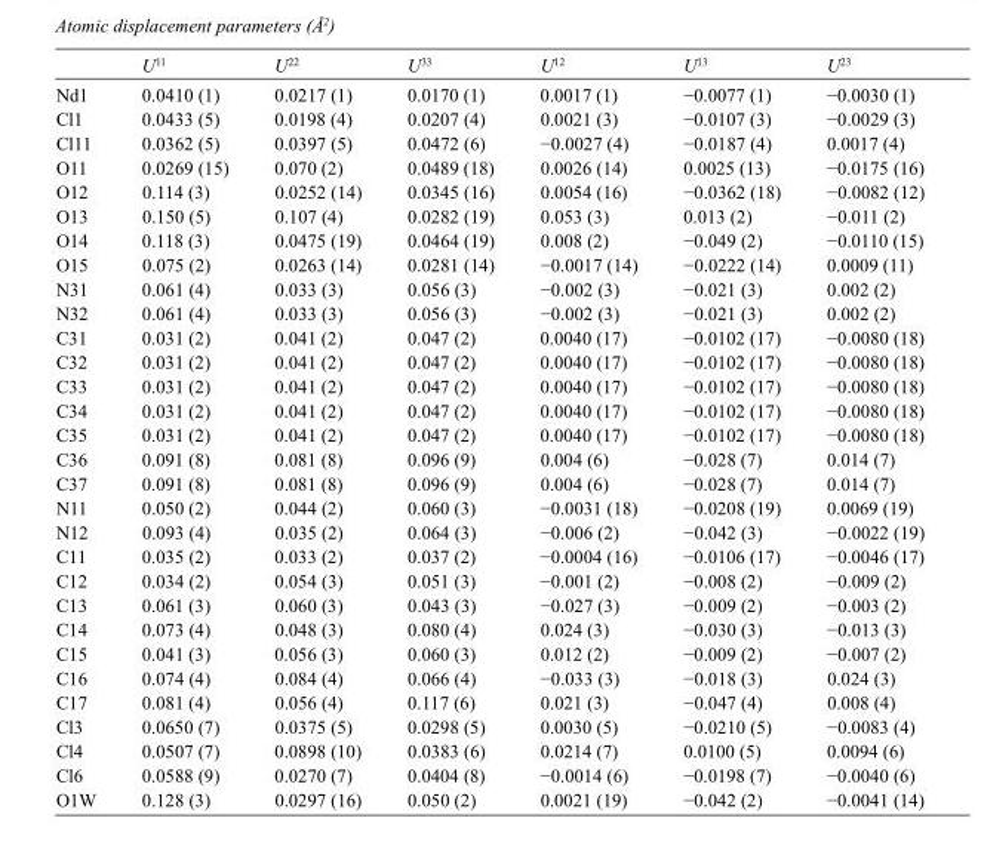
<table><thead><tr><td></td><td>U<sup>11</sup></td><td>U<sup>22</sup></td><td>U<sup>33</sup></td><td>U<sup>12</sup></td><td>U<sup>13</sup></td><td>U<sup>23</sup></td></tr></thead><tbody><tr><td>Nd1</td><td>0.0410 (1)</td><td>0.0217 (1)</td><td>0.0170 (1)</td><td>0.0017 (1)</td><td>−0.0077 (1)</td><td>−0.0030 (1)</td></tr><tr><td>Cl1</td><td>0.0433 (5)</td><td>0.0198 (4)</td><td>0.0207 (4)</td><td>0.0021 (3)</td><td>−0.0107 (3)</td><td>−0.0029 (3)</td></tr><tr><td>Cl11</td><td>0.0362 (5)</td><td>0.0397 (5)</td><td>0.0472 (6)</td><td>−0.0027 (4)</td><td>−0.0187 (4)</td><td>0.0017 (4)</td></tr><tr><td>O11</td><td>0.0269 (15)</td><td>0.070 (2)</td><td>0.0489 (18)</td><td>0.0026 (14)</td><td>0.0025 (13)</td><td>−0.0175 (16)</td></tr><tr><td>O12</td><td>0.114 (3)</td><td>0.0252 (14)</td><td>0.0345 (16)</td><td>0.0054 (16)</td><td>−0.0362 (18)</td><td>−0.0082 (12)</td></tr><tr><td>O13</td><td>0.150 (5)</td><td>0.107 (4)</td><td>0.0282 (19)</td><td>0.053 (3)</td><td>0.013 (2)</td><td>−0.011 (2)</td></tr><tr><td>O14</td><td>0.118 (3)</td><td>0.0475 (19)</td><td>0.0464 (19)</td><td>0.008 (2)</td><td>−0.049 (2)</td><td>−0.0110 (15)</td></tr><tr><td>O15</td><td>0.075 (2)</td><td>0.0263 (14)</td><td>0.0281 (14)</td><td>−0.0017 (14)</td><td>−0.0222 (14)</td><td>0.0009 (11)</td></tr><tr><td>N31</td><td>0.061 (4)</td><td>0.033 (3)</td><td>0.056 (3)</td><td>−0.002 (3)</td><td>−0.021 (3)</td><td>0.002 (2)</td></tr><tr><td>N32</td><td>0.061 (4)</td><td>0.033 (3)</td><td>0.056 (3)</td><td>−0.002 (3)</td><td>−0.021 (3)</td><td>0.002 (2)</td></tr><tr><td>C31</td><td>0.031 (2)</td><td>0.041 (2)</td><td>0.047 (2)</td><td>0.0040 (17)</td><td>−0.0102 (17)</td><td>−0.0080 (18)</td></tr><tr><td>C32</td><td>0.031 (2)</td><td>0.041 (2)</td><td>0.047 (2)</td><td>0.0040 (17)</td><td>−0.0102 (17)</td><td>−0.0080 (18)</td></tr><tr><td>C33</td><td>0.031 (2)</td><td>0.041 (2)</td><td>0.047 (2)</td><td>0.0040 (17)</td><td>−0.0102 (17)</td><td>−0.0080 (18)</td></tr><tr><td>C34</td><td>0.031 (2)</td><td>0.041 (2)</td><td>0.047 (2)</td><td>0.0040 (17)</td><td>−0.0102 (17)</td><td>−0.0080 (18)</td></tr><tr><td>C35</td><td>0.031 (2)</td><td>0.041 (2)</td><td>0.047 (2)</td><td>0.0040 (17)</td><td>−0.0102 (17)</td><td>−0.0080 (18)</td></tr><tr><td>C36</td><td>0.091 (8)</td><td>0.081 (8)</td><td>0.096 (9)</td><td>0.004 (6)</td><td>−0.028 (7)</td><td>0.014 (7)</td></tr><tr><td>C37</td><td>0.091 (8)</td><td>0.081 (8)</td><td>0.096 (9)</td><td>0.004 (6)</td><td>−0.028 (7)</td><td>0.014 (7)</td></tr><tr><td>N11</td><td>0.050 (2)</td><td>0.044 (2)</td><td>0.060 (3)</td><td>−0.0031 (18)</td><td>−0.0208 (19)</td><td>0.0069 (19)</td></tr><tr><td>N12</td><td>0.093 (4)</td><td>0.035 (2)</td><td>0.064 (3)</td><td>−0.006 (2)</td><td>−0.042 (3)</td><td>−0.0022 (19)</td></tr><tr><td>C11</td><td>0.035 (2)</td><td>0.033 (2)</td><td>0.037 (2)</td><td>−0.0004 (16)</td><td>−0.0106 (17)</td><td>−0.0046 (17)</td></tr><tr><td>C12</td><td>0.034 (2)</td><td>0.054 (3)</td><td>0.051 (3)</td><td>−0.001 (2)</td><td>−0.008 (2)</td><td>−0.009 (2)</td></tr><tr><td>C13</td><td>0.061 (3)</td><td>0.060 (3)</td><td>0.043 (3)</td><td>−0.027 (3)</td><td>−0.009 (2)</td><td>−0.003 (2)</td></tr><tr><td>C14</td><td>0.073 (4)</td><td>0.048 (3)</td><td>0.080 (4)</td><td>0.024 (3)</td><td>−0.030 (3)</td><td>−0.013 (3)</td></tr><tr><td>C15</td><td>0.041 (3)</td><td>0.056 (3)</td><td>0.060 (3)</td><td>0.012 (2)</td><td>−0.009 (2)</td><td>−0.007 (2)</td></tr><tr><td>C16</td><td>0.074 (4)</td><td>0.084 (4)</td><td>0.066 (4)</td><td>−0.033 (3)</td><td>−0.018 (3)</td><td>0.024 (3)</td></tr><tr><td>C17</td><td>0.081 (4)</td><td>0.056 (4)</td><td>0.117 (6)</td><td>0.021 (3)</td><td>−0.047 (4)</td><td>0.008 (4)</td></tr><tr><td>Cl3</td><td>0.0650 (7)</td><td>0.0375 (5)</td><td>0.0298 (5)</td><td>0.0030 (5)</td><td>−0.0210 (5)</td><td>−0.0083 (4)</td></tr><tr><td>Cl4</td><td>0.0507 (7)</td><td>0.0898 (10)</td><td>0.0383 (6)</td><td>0.0214 (7)</td><td>0.0100 (5)</td><td>0.0094 (6)</td></tr><tr><td>Cl6</td><td>0.0588 (9)</td><td>0.0270 (7)</td><td>0.0404 (8)</td><td>−0.0014 (6)</td><td>−0.0198 (7)</td><td>−0.0040 (6)</td></tr><tr><td>O1W</td><td>0.128 (3)</td><td>0.0297 (16)</td><td>0.050 (2)</td><td>0.0021 (19)</td><td>−0.042 (2)</td><td>−0.0041 (14)</td></tr></tbody></table>